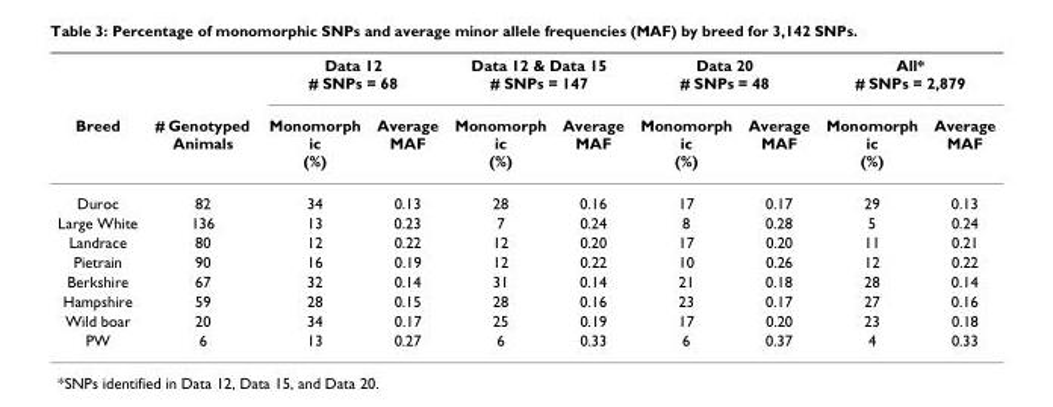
<table><thead><tr><td rowspan="2">Breed</td><td rowspan="2"># Genotyped Animals</td><td colspan="2">Data 12 # SNPs = 68</td><td colspan="2">Data 12 &amp; Data 15 # SNPs = 147</td><td colspan="2">Data 20 # SNPs = 48</td><td colspan="2">All* # SNPs = 2,879</td></tr><tr><td>Monomorph ic (%)</td><td>Average MAF</td><td>Monomorph ic (%)</td><td>Average MAF</td><td>Monomorph ic (%)</td><td>Average MAF</td><td>Monomorph ic (%)</td><td>Average MAF</td></tr></thead><tbody><tr><td>Duroc</td><td>82</td><td>34</td><td>0.13</td><td>28</td><td>0.16</td><td>17</td><td>0.17</td><td>29</td><td>0.13</td></tr><tr><td>Large White</td><td>136</td><td>13</td><td>0.23</td><td>7</td><td>0.24</td><td>8</td><td>0.28</td><td>5</td><td>0.24</td></tr><tr><td>Landrace</td><td>80</td><td>12</td><td>0.22</td><td>12</td><td>0.20</td><td>17</td><td>0.20</td><td>11</td><td>0.21</td></tr><tr><td>Pietrain</td><td>90</td><td>16</td><td>0.19</td><td>12</td><td>0.22</td><td>10</td><td>0.26</td><td>12</td><td>0.22</td></tr><tr><td>Berkshire</td><td>67</td><td>32</td><td>0.14</td><td>31</td><td>0.14</td><td>21</td><td>0.18</td><td>28</td><td>0.14</td></tr><tr><td>Hampshire</td><td>59</td><td>28</td><td>0.15</td><td>28</td><td>0.16</td><td>23</td><td>0.17</td><td>27</td><td>0.16</td></tr><tr><td>Wild boar</td><td>20</td><td>34</td><td>0.17</td><td>25</td><td>0.19</td><td>17</td><td>0.20</td><td>23</td><td>0.18</td></tr><tr><td>PW</td><td>6</td><td>13</td><td>0.27</td><td>6</td><td>0.33</td><td>6</td><td>0.37</td><td>4</td><td>0.33</td></tr></tbody></table>